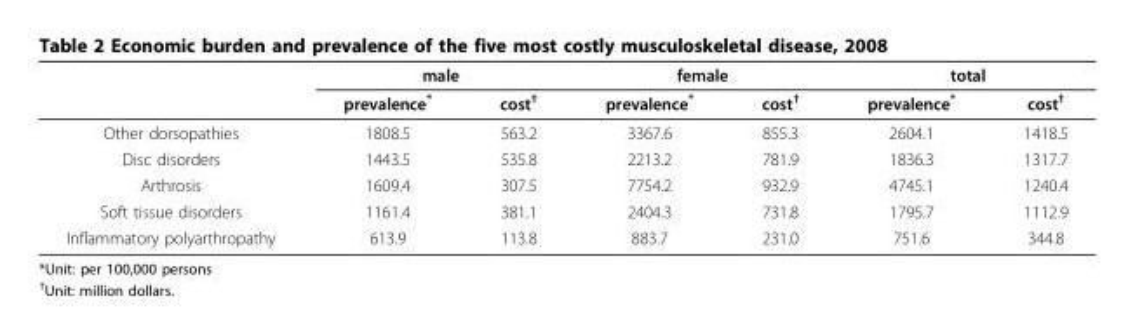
<table><thead><tr><td rowspan="2"></td><td colspan="2">male</td><td colspan="2">female</td><td colspan="2">total</td></tr><tr><td>prevalence*</td><td>cost<sup>†</sup></td><td>prevalence*</td><td>cost<sup>†</sup></td><td>prevalence*</td><td>cost<sup>†</sup></td></tr></thead><tbody><tr><td>Other dorsopathies</td><td>1808.5</td><td>563.2</td><td>3367.6</td><td>855.3</td><td>2604.1</td><td>1418.5</td></tr><tr><td>Disc disorders</td><td>1443.5</td><td>535.8</td><td>2213.2</td><td>781.9</td><td>1836.3</td><td>1317.7</td></tr><tr><td>Arthrosis</td><td>1609.4</td><td>307.5</td><td>7754.2</td><td>932.9</td><td>4745.1</td><td>1240.4</td></tr><tr><td>Soft tissue disorders</td><td>1161.4</td><td>381.1</td><td>2404.3</td><td>731.8</td><td>1795.7</td><td>1112.9</td></tr><tr><td>Inflammatory polyarthropathy</td><td>613.9</td><td>113.8</td><td>883.7</td><td>231.0</td><td>751.6</td><td>344.8</td></tr></tbody></table>